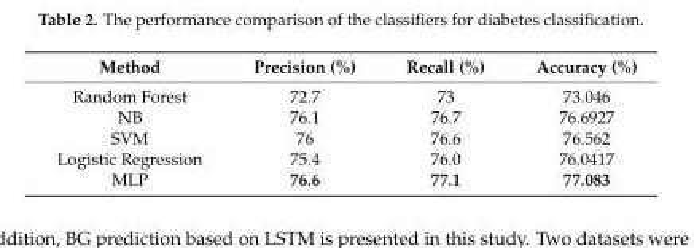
<table><thead><tr><td>Method</td><td>Precision (%)</td><td>Recall (%)</td><td>Accuracy (%)</td></tr></thead><tbody><tr><td>Random Forest</td><td>72.7</td><td>73</td><td>73.046</td></tr><tr><td>NB</td><td>76.1</td><td>76.7</td><td>76.6927</td></tr><tr><td>SVM</td><td>76</td><td>76.6</td><td>76.562</td></tr><tr><td>Logistic Regression</td><td>75.4</td><td>76.0</td><td>76.0417</td></tr><tr><td>MLP</td><td>76.6</td><td>77.1</td><td>77.083</td></tr></tbody></table>